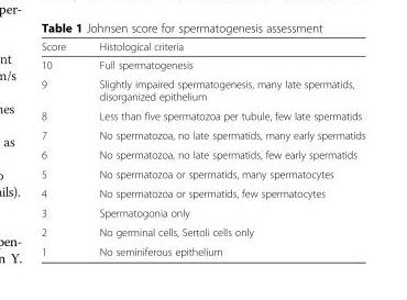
<table><thead><tr><td>Score</td><td>Histological criteria</td></tr></thead><tbody><tr><td>10</td><td>Full spermatogenesis</td></tr><tr><td>9</td><td>Slightly impaired spermatogenesis, many late spermatids, disorganized epithelium</td></tr><tr><td>8</td><td>Less than five spermatozoa per tubule, few late spermatids</td></tr><tr><td>7</td><td>No spermatozoa, no late spermatids, many early spermatids</td></tr><tr><td>6</td><td>No spermatozoa, no late spermatids, few early spermatids</td></tr><tr><td>5</td><td>No spermatozoa or spermatids, many spermatocytes</td></tr><tr><td>4</td><td>No spermatozoa or spermatids, few spermatocytes</td></tr><tr><td>3</td><td>Spermatogonia only</td></tr><tr><td>2</td><td>No germinal cells, Sertoli cells only</td></tr><tr><td>1</td><td>No seminiferous epithelium</td></tr></tbody></table>